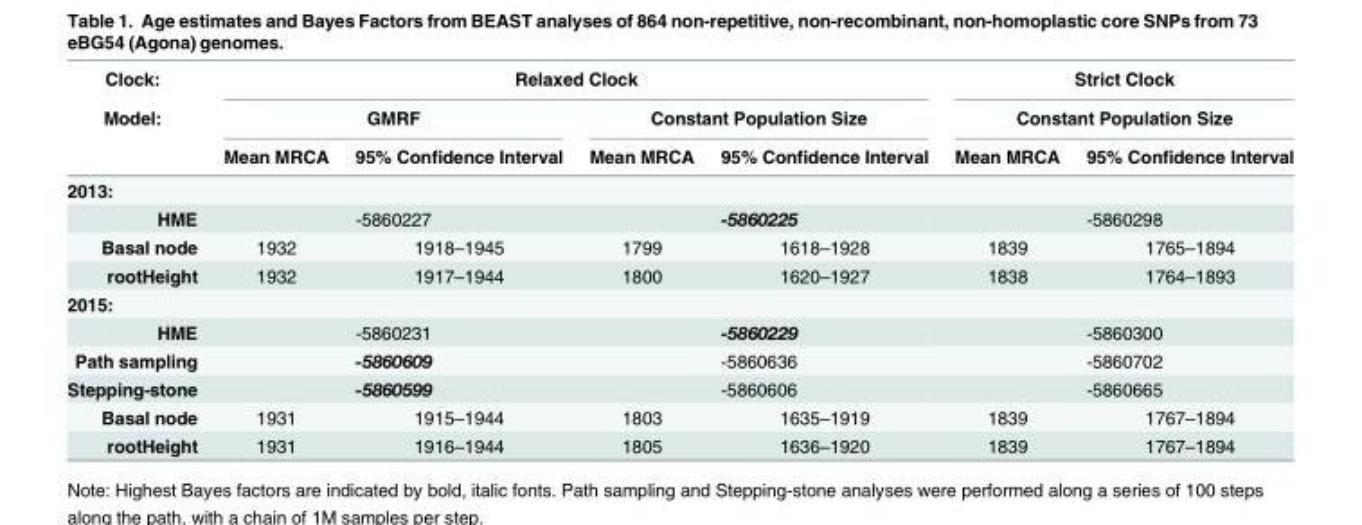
<table><thead><tr><td rowspan="3">Clock: Model:</td><td colspan="4">Relaxed Clock</td><td rowspan="2" colspan="2">Strict Clock Constant Population Size</td></tr><tr><td colspan="2">GMRF</td><td colspan="2">Constant Population Size</td></tr><tr><td>Mean MRCA</td><td>95% Confidence Interval</td><td>Mean MRCA</td><td>95% Confidence Interval</td><td>Mean MRCA</td><td>95% Confidence Interval</td></tr></thead><tbody><tr><td colspan="7">2013:</td></tr><tr><td>HME</td><td colspan="2">-5860227</td><td colspan="2">-5860225</td><td colspan="2">-5860298</td></tr><tr><td>Basal node</td><td>1932</td><td>1918–1945</td><td>1799</td><td>1618–1928</td><td>1839</td><td>1765–1894</td></tr><tr><td>rootHeight</td><td>1932</td><td>1917–1944</td><td>1800</td><td>1620–1927</td><td>1838</td><td>1764–1893</td></tr><tr><td colspan="7">2015:</td></tr><tr><td>HME</td><td colspan="2">-5860231</td><td colspan="2">-5860229</td><td colspan="2">-5860300</td></tr><tr><td>Path sampling</td><td colspan="2">-5860609</td><td colspan="2">-5860636</td><td colspan="2">-5860702</td></tr><tr><td>Stepping-stone</td><td colspan="2">-5860599</td><td colspan="2">-5860606</td><td colspan="2">-5860665</td></tr><tr><td>Basal node</td><td>1931</td><td>1915–1944</td><td>1803</td><td>1635–1919</td><td>1839</td><td>1767–1894</td></tr><tr><td>rootHeight</td><td>1931</td><td>1916–1944</td><td>1805</td><td>1636–1920</td><td>1839</td><td>1767–1894</td></tr></tbody></table>